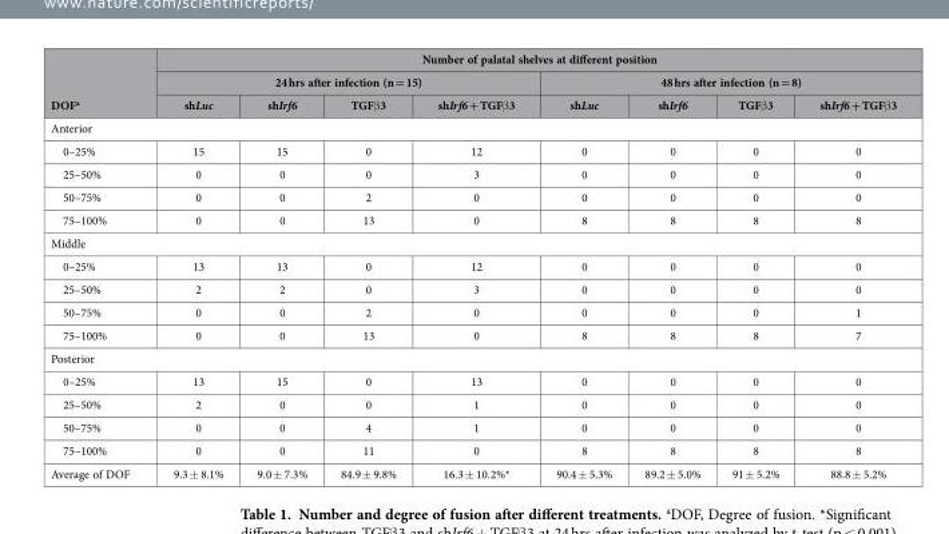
<table><thead><tr><td rowspan="3">DOFa</td><td colspan="8">Number of palatal shelves at different position</td></tr><tr><td colspan="4">24 hrs after infection (n = 15)</td><td colspan="4">48 hrs after infection (n = 8)</td></tr><tr><td>shLuc</td><td>shIrf6</td><td>TGFβ 3</td><td>shIrf6 + TGFβ 3</td><td>shLuc</td><td>shIrf6</td><td>TGFβ 3</td><td>shIrf6 + TGFβ 3</td></tr></thead><tbody><tr><td colspan="9">Anterior</td></tr><tr><td>0–25%</td><td>15</td><td>15</td><td>0</td><td>12</td><td>0</td><td>0</td><td>0</td><td>0</td></tr><tr><td>25–50%</td><td>0</td><td>0</td><td>0</td><td>3</td><td>0</td><td>0</td><td>0</td><td>0</td></tr><tr><td>50–75%</td><td>0</td><td>0</td><td>2</td><td>0</td><td>0</td><td>0</td><td>0</td><td>0</td></tr><tr><td>75–100%</td><td>0</td><td>0</td><td>13</td><td>0</td><td>8</td><td>8</td><td>8</td><td>8</td></tr><tr><td colspan="9">Middle</td></tr><tr><td>0–25%</td><td>13</td><td>13</td><td>0</td><td>12</td><td>0</td><td>0</td><td>0</td><td>0</td></tr><tr><td>25–50%</td><td>2</td><td>2</td><td>0</td><td>3</td><td>0</td><td>0</td><td>0</td><td>0</td></tr><tr><td>50–75%</td><td>0</td><td>0</td><td>2</td><td>0</td><td>0</td><td>0</td><td>0</td><td>1</td></tr><tr><td>75–100%</td><td>0</td><td>0</td><td>13</td><td>0</td><td>8</td><td>8</td><td>8</td><td>7</td></tr><tr><td colspan="9">Posterior</td></tr><tr><td>0–25%</td><td>13</td><td>15</td><td>0</td><td>13</td><td>0</td><td>0</td><td>0</td><td>0</td></tr><tr><td>25–50%</td><td>2</td><td>0</td><td>0</td><td>1</td><td>0</td><td>0</td><td>0</td><td>0</td></tr><tr><td>50–75%</td><td>0</td><td>0</td><td>4</td><td>1</td><td>0</td><td>0</td><td>0</td><td>0</td></tr><tr><td>75–100%</td><td>0</td><td>0</td><td>11</td><td>0</td><td>8</td><td>8</td><td>8</td><td>8</td></tr><tr><td>Average of DOF</td><td>9.3 ± 8.1%</td><td>9.0 ± 7.3%</td><td>84.9 ± 9.8%</td><td>16.3 ± 10.2%*</td><td>90.4 ± 5.3%</td><td>89.2 ± 5.0%</td><td>91 ± 5.2%</td><td>88.8 ± 5.2%</td></tr></tbody></table>